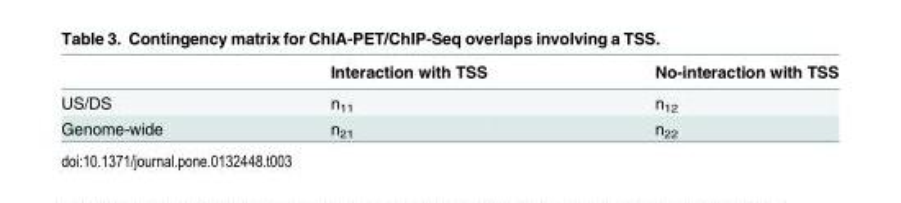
<table><thead><tr><td></td><td>Interaction with TSS</td><td>No-interaction with TSS</td></tr></thead><tbody><tr><td>US/DS</td><td>n<sub>11</sub></td><td>n<sub>12</sub></td></tr><tr><td>Genome-wide</td><td>n<sub>21</sub></td><td>n<sub>22</sub></td></tr></tbody></table>